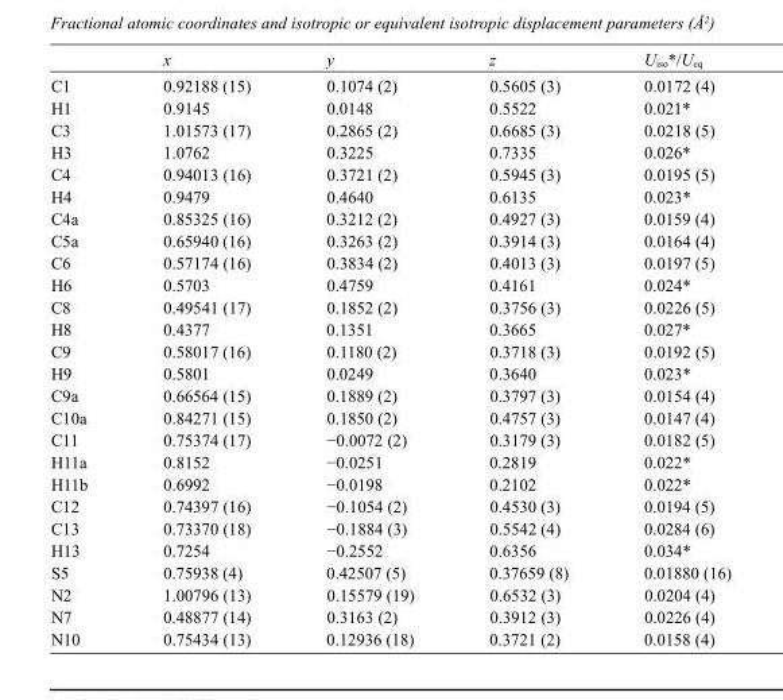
<table><thead><tr><td></td><td>x</td><td>y</td><td>z</td><td>U<sub>iso</sub>*/U<sub>eq</sub></td></tr></thead><tbody><tr><td>C1</td><td>0.92188 (15)</td><td>0.1074 (2)</td><td>0.5605 (3)</td><td>0.0172 (4)</td></tr><tr><td>H1</td><td>0.9145</td><td>0.0148</td><td>0.5522</td><td>0.021*</td></tr><tr><td>C3</td><td>1.01573 (17)</td><td>0.2865 (2)</td><td>0.6685 (3)</td><td>0.0218 (5)</td></tr><tr><td>H3</td><td>1.0762</td><td>0.3225</td><td>0.7335</td><td>0.026*</td></tr><tr><td>C4</td><td>0.94013 (16)</td><td>0.3721 (2)</td><td>0.5945 (3)</td><td>0.0195 (5)</td></tr><tr><td>H4</td><td>0.9479</td><td>0.4640</td><td>0.6135</td><td>0.023*</td></tr><tr><td>C4a</td><td>0.85325 (16)</td><td>0.3212 (2)</td><td>0.4927 (3)</td><td>0.0159 (4)</td></tr><tr><td>C5a</td><td>0.65940 (16)</td><td>0.3263 (2)</td><td>0.3914 (3)</td><td>0.0164 (4)</td></tr><tr><td>C6</td><td>0.57174 (16)</td><td>0.3834 (2)</td><td>0.4013 (3)</td><td>0.0197 (5)</td></tr><tr><td>H6</td><td>0.5703</td><td>0.4759</td><td>0.4161</td><td>0.024*</td></tr><tr><td>C8</td><td>0.49541 (17)</td><td>0.1852 (2)</td><td>0.3756 (3)</td><td>0.0226 (5)</td></tr><tr><td>H8</td><td>0.4377</td><td>0.1351</td><td>0.3665</td><td>0.027*</td></tr><tr><td>C9</td><td>0.58017 (16)</td><td>0.1180 (2)</td><td>0.3718 (3)</td><td>0.0192 (5)</td></tr><tr><td>H9</td><td>0.5801</td><td>0.0249</td><td>0.3640</td><td>0.023*</td></tr><tr><td>C9a</td><td>0.66564 (15)</td><td>0.1889 (2)</td><td>0.3797 (3)</td><td>0.0154 (4)</td></tr><tr><td>C10a</td><td>0.84271 (15)</td><td>0.1850 (2)</td><td>0.4757 (3)</td><td>0.0147 (4)</td></tr><tr><td>C11</td><td>0.75374 (17)</td><td>−0.0072 (2)</td><td>0.3179 (3)</td><td>0.0182 (5)</td></tr><tr><td>H11a</td><td>0.8152</td><td>−0.0251</td><td>0.2819</td><td>0.022*</td></tr><tr><td>H11b</td><td>0.6992</td><td>−0.0198</td><td>0.2102</td><td>0.022*</td></tr><tr><td>C12</td><td>0.74397 (16)</td><td>−0.1054 (2)</td><td>0.4530 (3)</td><td>0.0194 (5)</td></tr><tr><td>C13</td><td>0.73370 (18)</td><td>−0.1884 (3)</td><td>0.5542 (4)</td><td>0.0284 (6)</td></tr><tr><td>H13</td><td>0.7254</td><td>−0.2552</td><td>0.6356</td><td>0.034*</td></tr><tr><td>S5</td><td>0.75938 (4)</td><td>0.42507 (5)</td><td>0.37659 (8)</td><td>0.01880 (16)</td></tr><tr><td>N2</td><td>1.00796 (13)</td><td>0.15579 (19)</td><td>0.6532 (3)</td><td>0.0204 (4)</td></tr><tr><td>N7</td><td>0.48877 (14)</td><td>0.3163 (2)</td><td>0.3912 (3)</td><td>0.0226 (4)</td></tr><tr><td>N10</td><td>0.75434 (13)</td><td>0.12936 (18)</td><td>0.3721 (2)</td><td>0.0158 (4)</td></tr></tbody></table>